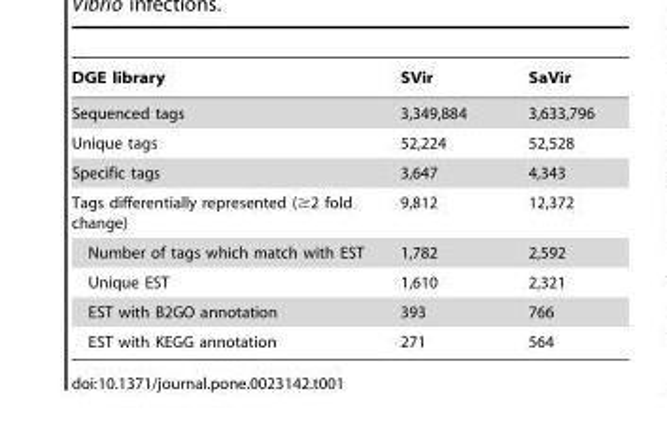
<table><thead><tr><td>DGE library</td><td>SVir</td><td>SaVir</td></tr></thead><tbody><tr><td>Sequenced tags</td><td>3,349,884</td><td>3,633,796</td></tr><tr><td>Unique tags</td><td>52,224</td><td>52,528</td></tr><tr><td>Specific tags</td><td>3,647</td><td>4,343</td></tr><tr><td>Tags differentially represented (≥2 fold change)</td><td>9,812</td><td>12,372</td></tr><tr><td>Number of tags which match with EST</td><td>1,782</td><td>2,592</td></tr><tr><td>Unique EST</td><td>1,610</td><td>2,321</td></tr><tr><td>EST with B2GO annotation</td><td>393</td><td>766</td></tr><tr><td>EST with KEGG annotation</td><td>271</td><td>564</td></tr></tbody></table>